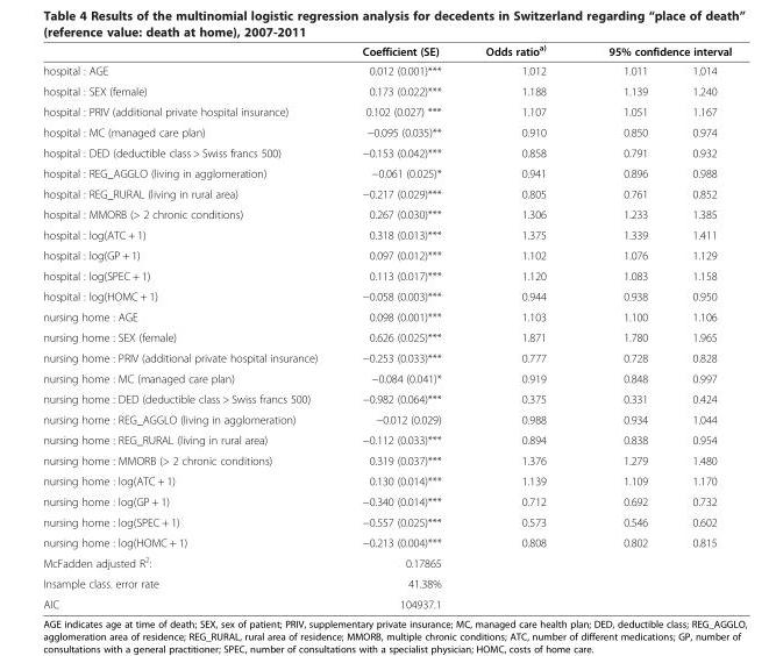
<table><thead><tr><td rowspan="2">hospital : AGE</td><td rowspan="2">Coefficient (SE) 0.012 (0.001)***</td><td rowspan="2">Odds ratio<sup>a)</sup> 1.012</td><td colspan="2">95% confidence interval</td></tr><tr><td>1.011</td><td>1.014</td></tr></thead><tbody><tr><td>hospital : SEX (female)</td><td>0.173 (0.022)***</td><td>1.188</td><td>1.139</td><td>1.240</td></tr><tr><td>hospital : PRIV (additional private hospital insurance)</td><td>0.102 (0.027) ***</td><td>1.107</td><td>1.051</td><td>1.167</td></tr><tr><td>hospital : MC (managed care plan)</td><td>−0.095 (0.035)**</td><td>0.910</td><td>0.850</td><td>0.974</td></tr><tr><td>hospital : DED (deductible class &gt; Swiss francs 500)</td><td>−0.153 (0.042)***</td><td>0.858</td><td>0.791</td><td>0.932</td></tr><tr><td>hospital : REG_AGGLO (living in agglomeration)</td><td>−0.061 (0.025)*</td><td>0.941</td><td>0.896</td><td>0.988</td></tr><tr><td>hospital : REG_RURAL (living in rural area)</td><td>−0.217 (0.029)***</td><td>0.805</td><td>0.761</td><td>0.852</td></tr><tr><td>hospital : MMORB (&gt; 2 chronic conditions)</td><td>0.267 (0.030)***</td><td>1.306</td><td>1.233</td><td>1.385</td></tr><tr><td>hospital : log(ATC + 1)</td><td>0.318 (0.013)***</td><td>1.375</td><td>1.339</td><td>1.411</td></tr><tr><td>hospital : log(GP + 1)</td><td>0.097 (0.012)***</td><td>1.102</td><td>1.076</td><td>1.129</td></tr><tr><td>hospital : log(SPEC + 1)</td><td>0.113 (0.017)***</td><td>1.120</td><td>1.083</td><td>1.158</td></tr><tr><td>hospital : log(HOMC + 1)</td><td>−0.058 (0.003)***</td><td>0.944</td><td>0.938</td><td>0.950</td></tr><tr><td>nursing home : AGE</td><td>0.098 (0.001)***</td><td>1.103</td><td>1.100</td><td>1.106</td></tr><tr><td>nursing home : SEX (female)</td><td>0.626 (0.025)***</td><td>1.871</td><td>1.780</td><td>1.965</td></tr><tr><td>nursing home : PRIV (additional private hospital insurance)</td><td>−0.253 (0.033)***</td><td>0.777</td><td>0.728</td><td>0.828</td></tr><tr><td>nursing home : MC (managed care plan)</td><td>−0.084 (0.041)*</td><td>0.919</td><td>0.848</td><td>0.997</td></tr><tr><td>nursing home : DED (deductible class &gt; Swiss francs 500)</td><td>−0.982 (0.064)***</td><td>0.375</td><td>0.331</td><td>0.424</td></tr><tr><td>nursing home : REG_AGGLO (living in agglomeration)</td><td>−0.012 (0.029)</td><td>0.988</td><td>0.934</td><td>1.044</td></tr><tr><td>nursing home : REG_RURAL (living in rural area)</td><td>−0.112 (0.033)***</td><td>0.894</td><td>0.838</td><td>0.954</td></tr><tr><td>nursing home : MMORB (&gt; 2 chronic conditions)</td><td>0.319 (0.037)***</td><td>1.376</td><td>1.279</td><td>1.480</td></tr><tr><td>nursing home : log(ATC + 1)</td><td>0.130 (0.014)***</td><td>1.139</td><td>1.109</td><td>1.170</td></tr><tr><td>nursing home : log(GP + 1)</td><td>−0.340 (0.014)***</td><td>0.712</td><td>0.692</td><td>0.732</td></tr><tr><td>nursing home : log(SPEC + 1)</td><td>−0.557 (0.025)***</td><td>0.573</td><td>0.546</td><td>0.602</td></tr><tr><td>nursing home : log(HOMC + 1)</td><td>−0.213 (0.004)***</td><td>0.808</td><td>0.802</td><td>0.815</td></tr><tr><td>McFadden adjusted R<sup>2</sup>:</td><td>0.17865</td><td></td><td></td><td></td></tr><tr><td>Insample class. error rate</td><td>41.38%</td><td></td><td></td><td></td></tr><tr><td>AIC</td><td>104937.1</td><td></td><td></td><td></td></tr></tbody></table>